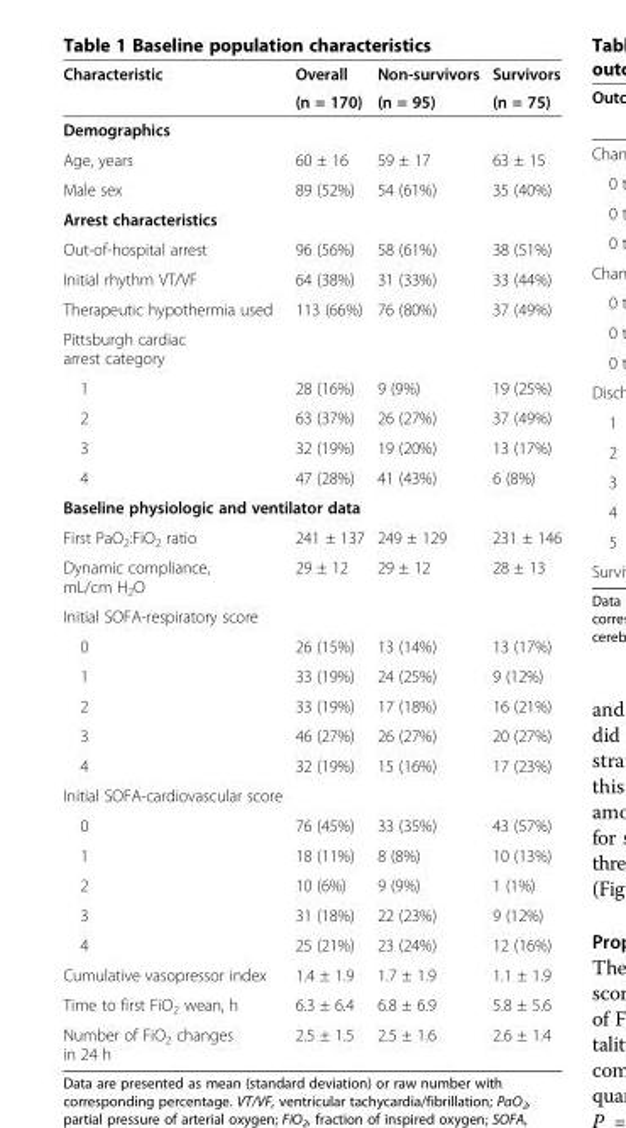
<table><thead><tr><td rowspan="2">Characteristic</td><td rowspan="2">Overall (n = 170)</td><td rowspan="2">Non-survivors (n = 95)</td><td rowspan="2">Survivors (n = 75)</td></tr><tr></tr></thead><tbody><tr><td colspan="4">Demographics</td></tr><tr><td>Age, years</td><td>60 ± 16</td><td>59 ± 17</td><td>63 ± 15</td></tr><tr><td>Male sex</td><td>89 (52%)</td><td>54 (61%)</td><td>35 (40%)</td></tr><tr><td colspan="4">Arrest characteristics</td></tr><tr><td>Out-of-hospital arrest</td><td>96 (56%)</td><td>58 (61%)</td><td>38 (51%)</td></tr><tr><td>Initial rhythm VT/VF</td><td>64 (38%)</td><td>31 (33%)</td><td>33 (44%)</td></tr><tr><td>Therapeutic hypothermia used</td><td>113 (66%)</td><td>76 (80%)</td><td>37 (49%)</td></tr><tr><td colspan="4">Pittsburgh cardiac arrest category</td></tr><tr><td>1</td><td>28 (16%)</td><td>9 (9%)</td><td>19 (25%)</td></tr><tr><td>2</td><td>63 (37%)</td><td>26 (27%)</td><td>37 (49%)</td></tr><tr><td>3</td><td>32 (19%)</td><td>19 (20%)</td><td>13 (17%)</td></tr><tr><td>4</td><td>47 (28%)</td><td>41 (43%)</td><td>6 (8%)</td></tr><tr><td colspan="4">Baseline physiologic and ventilator data</td></tr><tr><td>First PaO<sub>2</sub>:FiO<sub>2</sub> ratio</td><td>241 ± 137</td><td>249 ± 129</td><td>231 ± 146</td></tr><tr><td>Dynamic compliance, mL/cm H<sub>2</sub>O</td><td>29 ± 12</td><td>29 ± 12</td><td>28 ± 13</td></tr><tr><td colspan="4">Initial SOFA-respiratory score</td></tr><tr><td>0</td><td>26 (15%)</td><td>13 (14%)</td><td>13 (17%)</td></tr><tr><td>1</td><td>33 (19%)</td><td>24 (25%)</td><td>9 (12%)</td></tr><tr><td>2</td><td>33 (19%)</td><td>17 (18%)</td><td>16 (21%)</td></tr><tr><td>3</td><td>46 (27%)</td><td>26 (27%)</td><td>20 (27%)</td></tr><tr><td>4</td><td>32 (19%)</td><td>15 (16%)</td><td>17 (23%)</td></tr><tr><td colspan="4">Initial SOFA-cardiovascular score</td></tr><tr><td>0</td><td>76 (45%)</td><td>33 (35%)</td><td>43 (57%)</td></tr><tr><td>1</td><td>18 (11%)</td><td>8 (8%)</td><td>10 (13%)</td></tr><tr><td>2</td><td>10 (6%)</td><td>9 (9%)</td><td>1 (1%)</td></tr><tr><td>3</td><td>31 (18%)</td><td>22 (23%)</td><td>9 (12%)</td></tr><tr><td>4</td><td>25 (21%)</td><td>23 (24%)</td><td>12 (16%)</td></tr><tr><td>Cumulative vasopressor index</td><td>1.4 ± 1.9</td><td>1.7 ± 1.9</td><td>1.1 ± 1.9</td></tr><tr><td>Time to first FiO<sub>2</sub> wean, h</td><td>6.3 ± 6.4</td><td>6.8 ± 6.9</td><td>5.8 ± 5.6</td></tr><tr><td>Number of FiO<sub>2</sub> changes in 24 h</td><td>2.5 ± 1.5</td><td>2.5 ± 1.6</td><td>2.6 ± 1.4</td></tr></tbody></table>